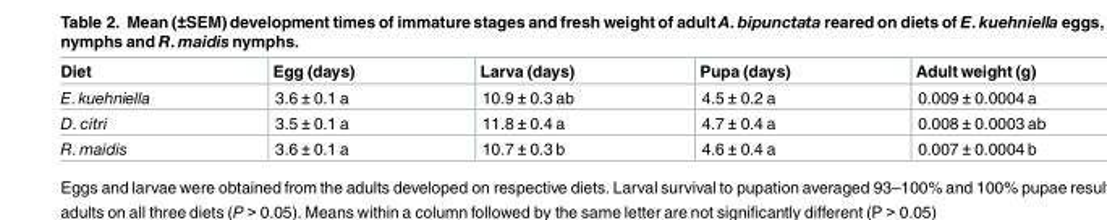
<table><thead><tr><td>Diet</td><td>Egg (days)</td><td>Larva (days)</td><td>Pupa (days)</td><td>Adult weight (g)</td></tr></thead><tbody><tr><td>E. kuehniella</td><td>3.6 ± 0.1 a</td><td>10.9 ± 0.3 ab</td><td>4.5 ± 0.2 a</td><td>0.009 ± 0.0004 a</td></tr><tr><td>D. citri</td><td>3.5 ± 0.1 a</td><td>11.8 ± 0.4 a</td><td>4.7 ± 0.4 a</td><td>0.008 ± 0.0003 ab</td></tr><tr><td>R. maidis</td><td>3.6 ± 0.1 a</td><td>10.7 ± 0.3 b</td><td>4.6 ± 0.4 a</td><td>0.007 ± 0.0004 b</td></tr></tbody></table>